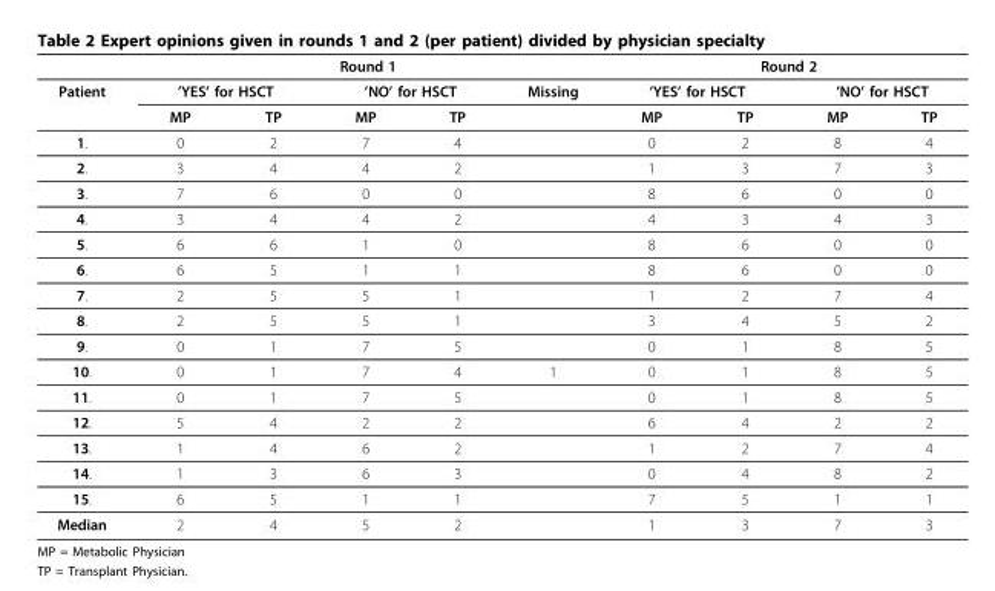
<table><thead><tr><td rowspan="3">Patient</td><td colspan="5">Round 1</td><td colspan="4">Round 2</td></tr><tr><td colspan="2">’YES’ for HSCT</td><td colspan="2">’NO’ for HSCT</td><td rowspan="2">Missing</td><td colspan="2">’YES’ for HSCT</td><td colspan="2">’NO’ for HSCT</td></tr><tr><td>MP</td><td>TP</td><td>MP</td><td>TP</td><td>MP</td><td>TP</td><td>MP</td><td>TP</td></tr></thead><tbody><tr><td>1.</td><td>0</td><td>2</td><td>7</td><td>4</td><td></td><td>0</td><td>2</td><td>8</td><td>4</td></tr><tr><td>2.</td><td>3</td><td>4</td><td>4</td><td>2</td><td></td><td>1</td><td>3</td><td>7</td><td>3</td></tr><tr><td>3.</td><td>7</td><td>6</td><td>0</td><td>0</td><td></td><td>8</td><td>6</td><td>0</td><td>0</td></tr><tr><td>4.</td><td>3</td><td>4</td><td>4</td><td>2</td><td></td><td>4</td><td>3</td><td>4</td><td>3</td></tr><tr><td>5.</td><td>6</td><td>6</td><td>1</td><td>0</td><td></td><td>8</td><td>6</td><td>0</td><td>0</td></tr><tr><td>6.</td><td>6</td><td>5</td><td>1</td><td>1</td><td></td><td>8</td><td>6</td><td>0</td><td>0</td></tr><tr><td>7.</td><td>2</td><td>5</td><td>5</td><td>1</td><td></td><td>1</td><td>2</td><td>7</td><td>4</td></tr><tr><td>8.</td><td>2</td><td>5</td><td>5</td><td>1</td><td></td><td>3</td><td>4</td><td>5</td><td>2</td></tr><tr><td>9.</td><td>0</td><td>1</td><td>7</td><td>5</td><td></td><td>0</td><td>1</td><td>8</td><td>5</td></tr><tr><td>10.</td><td>0</td><td>1</td><td>7</td><td>4</td><td>1</td><td>0</td><td>1</td><td>8</td><td>5</td></tr><tr><td>11.</td><td>0</td><td>1</td><td>7</td><td>5</td><td></td><td>0</td><td>1</td><td>8</td><td>5</td></tr><tr><td>12.</td><td>5</td><td>4</td><td>2</td><td>2</td><td></td><td>6</td><td>4</td><td>2</td><td>2</td></tr><tr><td>13.</td><td>1</td><td>4</td><td>6</td><td>2</td><td></td><td>1</td><td>2</td><td>7</td><td>4</td></tr><tr><td>14.</td><td>1</td><td>3</td><td>6</td><td>3</td><td></td><td>0</td><td>4</td><td>8</td><td>2</td></tr><tr><td>15.</td><td>6</td><td>5</td><td>1</td><td>1</td><td></td><td>7</td><td>5</td><td>1</td><td>1</td></tr><tr><td>Median</td><td>2</td><td>4</td><td>5</td><td>2</td><td></td><td>1</td><td>3</td><td>7</td><td>3</td></tr></tbody></table>